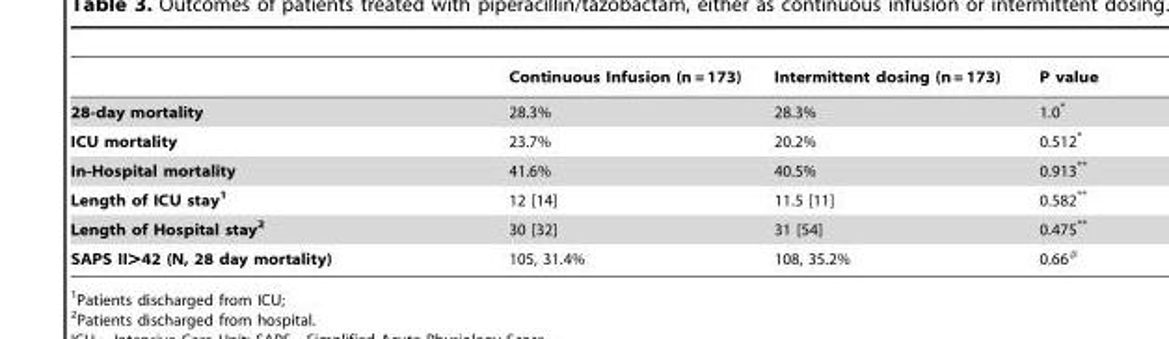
<table><thead><tr><td></td><td>Continuous Infusion (n = 173)</td><td>Intermittent dosing (n = 173)</td><td>P value</td></tr></thead><tbody><tr><td>28-day mortality</td><td>28.3%</td><td>28.3%</td><td>1.0*</td></tr><tr><td>ICU mortality</td><td>23.7%</td><td>20.2%</td><td>0.512*</td></tr><tr><td>In-Hospital mortality</td><td>41.6%</td><td>40.5%</td><td>0.913**</td></tr><tr><td>Length of ICU stay1</td><td>12 [14]</td><td>11.5 [11]</td><td>0.582**</td></tr><tr><td>Length of Hospital stay2</td><td>30 [32]</td><td>31 [54]</td><td>0.475**</td></tr><tr><td>SAPS II&gt;42 (N, 28 day mortality)</td><td>105, 31.4%</td><td>108, 35.2%</td><td>0.66#</td></tr></tbody></table>